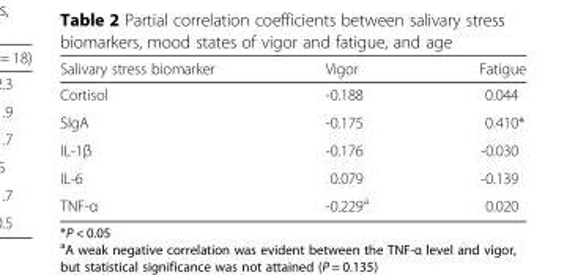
<table><thead><tr><td>Salivary stress biomarker</td><td>Vigor</td><td>Fatigue</td></tr></thead><tbody><tr><td>Cortisol</td><td>-0.188</td><td>0.044</td></tr><tr><td>SIgA</td><td>-0.175</td><td>0.410*</td></tr><tr><td>IL-1β</td><td>-0.176</td><td>-0.030</td></tr><tr><td>IL-6</td><td>0.079</td><td>-0.139</td></tr><tr><td>TNF-α</td><td>-0.229<sup>a</sup></td><td>0.020</td></tr></tbody></table>